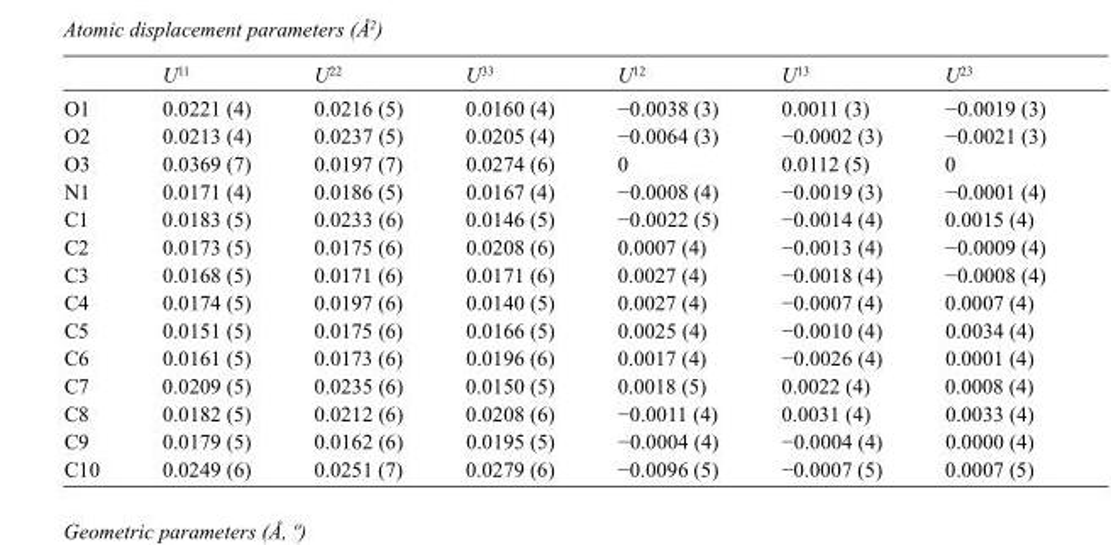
<table><thead><tr><td></td><td>U<sup>11</sup></td><td>U<sup>22</sup></td><td>U<sup>33</sup></td><td>U<sup>12</sup></td><td>U<sup>13</sup></td><td>U<sup>23</sup></td></tr></thead><tbody><tr><td>O1</td><td>0.0221 (4)</td><td>0.0216 (5)</td><td>0.0160 (4)</td><td>−0.0038 (3)</td><td>0.0011 (3)</td><td>−0.0019 (3)</td></tr><tr><td>O2</td><td>0.0213 (4)</td><td>0.0237 (5)</td><td>0.0205 (4)</td><td>−0.0064 (3)</td><td>−0.0002 (3)</td><td>−0.0021 (3)</td></tr><tr><td>O3</td><td>0.0369 (7)</td><td>0.0197 (7)</td><td>0.0274 (6)</td><td>0</td><td>0.0112 (5)</td><td>0</td></tr><tr><td>N1</td><td>0.0171 (4)</td><td>0.0186 (5)</td><td>0.0167 (4)</td><td>−0.0008 (4)</td><td>−0.0019 (3)</td><td>−0.0001 (4)</td></tr><tr><td>C1</td><td>0.0183 (5)</td><td>0.0233 (6)</td><td>0.0146 (5)</td><td>−0.0022 (5)</td><td>−0.0014 (4)</td><td>0.0015 (4)</td></tr><tr><td>C2</td><td>0.0173 (5)</td><td>0.0175 (6)</td><td>0.0208 (6)</td><td>0.0007 (4)</td><td>−0.0013 (4)</td><td>−0.0009 (4)</td></tr><tr><td>C3</td><td>0.0168 (5)</td><td>0.0171 (6)</td><td>0.0171 (6)</td><td>0.0027 (4)</td><td>−0.0018 (4)</td><td>−0.0008 (4)</td></tr><tr><td>C4</td><td>0.0174 (5)</td><td>0.0197 (6)</td><td>0.0140 (5)</td><td>0.0027 (4)</td><td>−0.0007 (4)</td><td>0.0007 (4)</td></tr><tr><td>C5</td><td>0.0151 (5)</td><td>0.0175 (6)</td><td>0.0166 (5)</td><td>0.0025 (4)</td><td>−0.0010 (4)</td><td>0.0034 (4)</td></tr><tr><td>C6</td><td>0.0161 (5)</td><td>0.0173 (6)</td><td>0.0196 (6)</td><td>0.0017 (4)</td><td>−0.0026 (4)</td><td>0.0001 (4)</td></tr><tr><td>C7</td><td>0.0209 (5)</td><td>0.0235 (6)</td><td>0.0150 (5)</td><td>0.0018 (5)</td><td>0.0022 (4)</td><td>0.0008 (4)</td></tr><tr><td>C8</td><td>0.0182 (5)</td><td>0.0212 (6)</td><td>0.0208 (6)</td><td>−0.0011 (4)</td><td>0.0031 (4)</td><td>0.0033 (4)</td></tr><tr><td>C9</td><td>0.0179 (5)</td><td>0.0162 (6)</td><td>0.0195 (5)</td><td>−0.0004 (4)</td><td>−0.0004 (4)</td><td>0.0000 (4)</td></tr><tr><td>C10</td><td>0.0249 (6)</td><td>0.0251 (7)</td><td>0.0279 (6)</td><td>−0.0096 (5)</td><td>−0.0007 (5)</td><td>0.0007 (5)</td></tr></tbody></table>